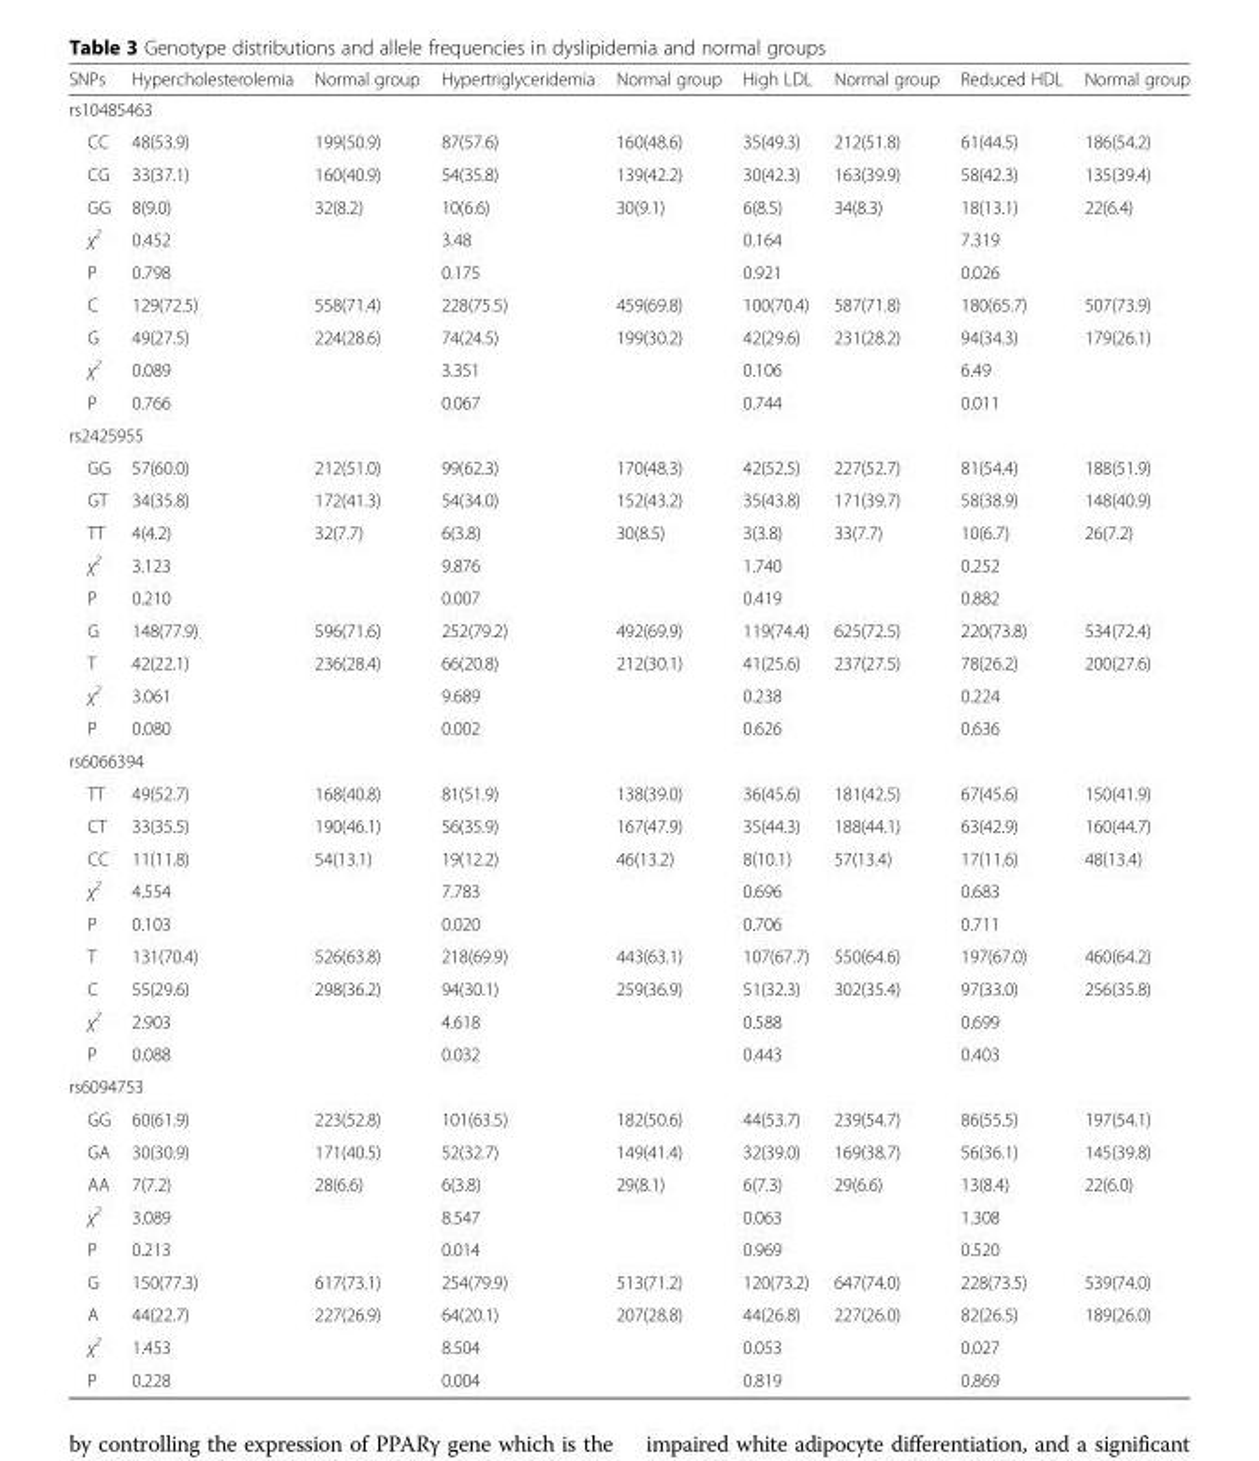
<table><thead><tr><td>SNPs</td><td>Hypercholesterolemia</td><td>Normal group</td><td>Hypertriglyceridemia</td><td>Normal group</td><td>High LDL</td><td>Normal group</td><td>Reduced HDL</td><td>Normal group</td></tr></thead><tbody><tr><td colspan="9">rs10485463</td></tr><tr><td>CC</td><td>48(53.9)</td><td>199(50.9)</td><td>87(57.6)</td><td>160(48.6)</td><td>35(49.3)</td><td>212(51.8)</td><td>61(44.5)</td><td>186(54.2)</td></tr><tr><td>CG</td><td>33(37.1)</td><td>160(40.9)</td><td>54(35.8)</td><td>139(42.2)</td><td>30(42.3)</td><td>163(39.9)</td><td>58(42.3)</td><td>135(39.4)</td></tr><tr><td>GG</td><td>8(9.0)</td><td>32(8.2)</td><td>10(6.6)</td><td>30(9.1)</td><td>6(8.5)</td><td>34(8.3)</td><td>18(13.1)</td><td>22(6.4)</td></tr><tr><td>χ<sup>2</sup></td><td>0.452</td><td></td><td>3.48</td><td></td><td>0.164</td><td></td><td>7.319</td><td></td></tr><tr><td>P</td><td>0.798</td><td></td><td>0.175</td><td></td><td>0.921</td><td></td><td>0.026</td><td></td></tr><tr><td>C</td><td>129(72.5)</td><td>558(71.4)</td><td>228(75.5)</td><td>459(69.8)</td><td>100(70.4)</td><td>587(71.8)</td><td>180(65.7)</td><td>507(73.9)</td></tr><tr><td>G</td><td>49(27.5)</td><td>224(28.6)</td><td>74(24.5)</td><td>199(30.2)</td><td>42(29.6)</td><td>231(28.2)</td><td>94(34.3)</td><td>179(26.1)</td></tr><tr><td>χ<sup>2</sup></td><td>0.089</td><td></td><td>3.351</td><td></td><td>0.106</td><td></td><td>6.49</td><td></td></tr><tr><td>P</td><td>0.766</td><td></td><td>0.067</td><td></td><td>0.744</td><td></td><td>0.011</td><td></td></tr><tr><td colspan="9">rs2425955</td></tr><tr><td>GG</td><td>57(60.0)</td><td>212(51.0)</td><td>99(62.3)</td><td>170(48.3)</td><td>42(52.5)</td><td>227(52.7)</td><td>81(54.4)</td><td>188(51.9)</td></tr><tr><td>GT</td><td>34(35.8)</td><td>172(41.3)</td><td>54(34.0)</td><td>152(43.2)</td><td>35(43.8)</td><td>171(39.7)</td><td>58(38.9)</td><td>148(40.9)</td></tr><tr><td>TT</td><td>4(4.2)</td><td>32(7.7)</td><td>6(3.8)</td><td>30(8.5)</td><td>3(3.8)</td><td>33(7.7)</td><td>10(6.7)</td><td>26(7.2)</td></tr><tr><td>χ<sup>2</sup></td><td>3.123</td><td></td><td>9.876</td><td></td><td>1.740</td><td></td><td>0.252</td><td></td></tr><tr><td>P</td><td>0.210</td><td></td><td>0.007</td><td></td><td>0.419</td><td></td><td>0.882</td><td></td></tr><tr><td>G</td><td>148(77.9)</td><td>596(71.6)</td><td>252(79.2)</td><td>492(69.9)</td><td>119(74.4)</td><td>625(72.5)</td><td>220(73.8)</td><td>534(72.4)</td></tr><tr><td>T</td><td>42(22.1)</td><td>236(28.4)</td><td>66(20.8)</td><td>212(30.1)</td><td>41(25.6)</td><td>237(27.5)</td><td>78(26.2)</td><td>200(27.6)</td></tr><tr><td>χ<sup>2</sup></td><td>3.061</td><td></td><td>9.689</td><td></td><td>0.238</td><td></td><td>0.224</td><td></td></tr><tr><td>P</td><td>0.080</td><td></td><td>0.002</td><td></td><td>0.626</td><td></td><td>0.636</td><td></td></tr><tr><td colspan="9">rs6066394</td></tr><tr><td>TT</td><td>49(52.7)</td><td>168(40.8)</td><td>81(51.9)</td><td>138(39.0)</td><td>36(45.6)</td><td>181(42.5)</td><td>67(45.6)</td><td>150(41.9)</td></tr><tr><td>CT</td><td>33(35.5)</td><td>190(46.1)</td><td>56(35.9)</td><td>167(47.9)</td><td>35(44.3)</td><td>188(44.1)</td><td>63(42.9)</td><td>160(44.7)</td></tr><tr><td>CC</td><td>11(11.8)</td><td>54(13.1)</td><td>19(12.2)</td><td>46(13.2)</td><td>8(10.1)</td><td>57(13.4)</td><td>17(11.6)</td><td>48(13.4)</td></tr><tr><td>χ<sup>2</sup></td><td>4.554</td><td></td><td>7.783</td><td></td><td>0.696</td><td></td><td>0.683</td><td></td></tr><tr><td>P</td><td>0.103</td><td></td><td>0.020</td><td></td><td>0.706</td><td></td><td>0.711</td><td></td></tr><tr><td>T</td><td>131(70.4)</td><td>526(63.8)</td><td>218(69.9)</td><td>443(63.1)</td><td>107(67.7)</td><td>550(64.6)</td><td>197(67.0)</td><td>460(64.2)</td></tr><tr><td>C</td><td>55(29.6)</td><td>298(36.2)</td><td>94(30.1)</td><td>259(36.9)</td><td>51(32.3)</td><td>302(35.4)</td><td>97(33.0)</td><td>256(35.8)</td></tr><tr><td>χ<sup>2</sup></td><td>2.903</td><td></td><td>4.618</td><td></td><td>0.588</td><td></td><td>0.699</td><td></td></tr><tr><td>P</td><td>0.088</td><td></td><td>0.032</td><td></td><td>0.443</td><td></td><td>0.403</td><td></td></tr><tr><td colspan="9">rs6094753</td></tr><tr><td>GG</td><td>60(61.9)</td><td>223(52.8)</td><td>101(63.5)</td><td>182(50.6)</td><td>44(53.7)</td><td>239(54.7)</td><td>86(55.5)</td><td>197(54.1)</td></tr><tr><td>GA</td><td>30(30.9)</td><td>171(40.5)</td><td>52(32.7)</td><td>149(41.4)</td><td>32(39.0)</td><td>169(38.7)</td><td>56(36.1)</td><td>145(39.8)</td></tr><tr><td>AA</td><td>7(7.2)</td><td>28(6.6)</td><td>6(3.8)</td><td>29(8.1)</td><td>6(7.3)</td><td>29(6.6)</td><td>13(8.4)</td><td>22(6.0)</td></tr><tr><td>χ<sup>2</sup></td><td>3.089</td><td></td><td>8.547</td><td></td><td>0.063</td><td></td><td>1.308</td><td></td></tr><tr><td>P</td><td>0.213</td><td></td><td>0.014</td><td></td><td>0.969</td><td></td><td>0.520</td><td></td></tr><tr><td>G</td><td>150(77.3)</td><td>617(73.1)</td><td>254(79.9)</td><td>513(71.2)</td><td>120(73.2)</td><td>647(74.0)</td><td>228(73.5)</td><td>539(74.0)</td></tr><tr><td>A</td><td>44(22.7)</td><td>227(26.9)</td><td>64(20.1)</td><td>207(28.8)</td><td>44(26.8)</td><td>227(26.0)</td><td>82(26.5)</td><td>189(26.0)</td></tr><tr><td>χ<sup>2</sup></td><td>1.453</td><td></td><td>8.504</td><td></td><td>0.053</td><td></td><td>0.027</td><td></td></tr><tr><td>P</td><td>0.228</td><td></td><td>0.004</td><td></td><td>0.819</td><td></td><td>0.869</td><td></td></tr></tbody></table>